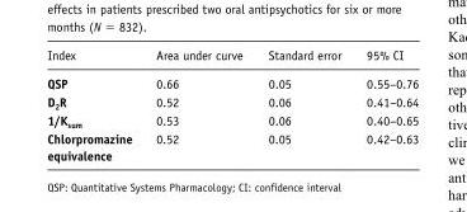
<table><thead><tr><td>Index</td><td>Area under curve</td><td>Standard error</td><td>95% CI</td></tr></thead><tbody><tr><td>QSP</td><td>0.66</td><td>0.05</td><td>0.55–0.76</td></tr><tr><td>D<sub>2</sub>R</td><td>0.52</td><td>0.06</td><td>0.41–0.64</td></tr><tr><td>1/K<sub>sum</sub></td><td>0.53</td><td>0.06</td><td>0.40–0.65</td></tr><tr><td>Chlorpromazine equivalence</td><td>0.52</td><td>0.05</td><td>0.42–0.63</td></tr></tbody></table>